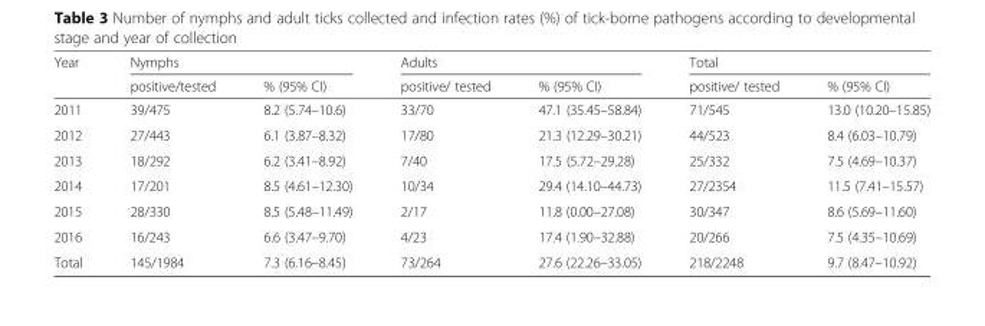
<table><thead><tr><td rowspan="2">Year</td><td colspan="2">Nymphs</td><td colspan="2">Adults</td><td colspan="2">Total</td></tr><tr><td>positive/tested</td><td>% (95% CI)</td><td>positive/ tested</td><td>% (95% CI)</td><td>positive/ tested</td><td>% (95% CI)</td></tr></thead><tbody><tr><td>2011</td><td>39/475</td><td>8.2 (5.74–10.6)</td><td>33/70</td><td>47.1 (35.45–58.84)</td><td>71/545</td><td>13.0 (10.20–15.85)</td></tr><tr><td>2012</td><td>27/443</td><td>6.1 (3.87–8.32)</td><td>17/80</td><td>21.3 (12.29–30.21)</td><td>44/523</td><td>8.4 (6.03–10.79)</td></tr><tr><td>2013</td><td>18/292</td><td>6.2 (3.41–8.92)</td><td>7/40</td><td>17.5 (5.72–29.28)</td><td>25/332</td><td>7.5 (4.69–10.37)</td></tr><tr><td>2014</td><td>17/201</td><td>8.5 (4.61–12.30)</td><td>10/34</td><td>29.4 (14.10–44.73)</td><td>27/2354</td><td>11.5 (7.41–15.57)</td></tr><tr><td>2015</td><td>28/330</td><td>8.5 (5.48–11.49)</td><td>2/17</td><td>11.8 (0.00–27.08)</td><td>30/347</td><td>8.6 (5.69–11.60)</td></tr><tr><td>2016</td><td>16/243</td><td>6.6 (3.47–9.70)</td><td>4/23</td><td>17.4 (1.90–32.88)</td><td>20/266</td><td>7.5 (4.35–10.69)</td></tr><tr><td>Total</td><td>145/1984</td><td>7.3 (6.16–8.45)</td><td>73/264</td><td>27.6 (22.26–33.05)</td><td>218/2248</td><td>9.7 (8.47–10.92)</td></tr></tbody></table>